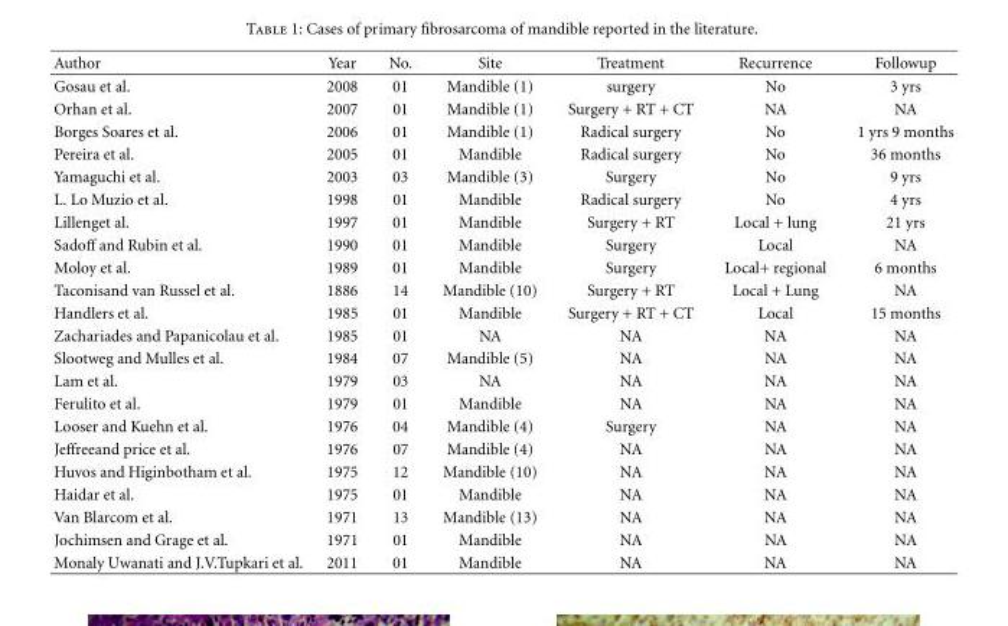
<table><thead><tr><td>Author</td><td>Year</td><td>No.</td><td>Site</td><td>Treatment</td><td>Recurrence</td><td>Followup</td></tr></thead><tbody><tr><td>Gosau et al.</td><td>2008</td><td>01</td><td>Mandible (1)</td><td>surgery</td><td>No</td><td>3 yrs</td></tr><tr><td>Orhan et al.</td><td>2007</td><td>01</td><td>Mandible (1)</td><td>Surgery + RT + CT</td><td>NA</td><td>NA</td></tr><tr><td>Borges Soares et al.</td><td>2006</td><td>01</td><td>Mandible (1)</td><td>Radical surgery</td><td>No</td><td>1 yrs 9 months</td></tr><tr><td>Pereira et al.</td><td>2005</td><td>01</td><td>Mandible</td><td>Radical surgery</td><td>No</td><td>36 months</td></tr><tr><td>Yamaguchi et al.</td><td>2003</td><td>03</td><td>Mandible (3)</td><td>Surgery</td><td>No</td><td>9 yrs</td></tr><tr><td>L. Lo Muzio et al.</td><td>1998</td><td>01</td><td>Mandible</td><td>Radical surgery</td><td>No</td><td>4 yrs</td></tr><tr><td>Lillenget al.</td><td>1997</td><td>01</td><td>Mandible</td><td>Surgery + RT</td><td>Local + lung</td><td>21 yrs</td></tr><tr><td>Sadoff and Rubin et al.</td><td>1990</td><td>01</td><td>Mandible</td><td>Surgery</td><td>Local</td><td>NA</td></tr><tr><td>Moloy et al.</td><td>1989</td><td>01</td><td>Mandible</td><td>Surgery</td><td>Local+ regional</td><td>6 months</td></tr><tr><td>Taconisand van Russel et al.</td><td>1886</td><td>14</td><td>Mandible (10)</td><td>Surgery + RT</td><td>Local + Lung</td><td>NA</td></tr><tr><td>Handlers et al.</td><td>1985</td><td>01</td><td>Mandible</td><td>Surgery + RT + CT</td><td>Local</td><td>15 months</td></tr><tr><td>Zachariades and Papanicolau et al.</td><td>1985</td><td>01</td><td>NA</td><td>NA</td><td>NA</td><td>NA</td></tr><tr><td>Slootweg and Mulles et al.</td><td>1984</td><td>07</td><td>Mandible (5)</td><td>NA</td><td>NA</td><td>NA</td></tr><tr><td>Lam et al.</td><td>1979</td><td>03</td><td>NA</td><td>NA</td><td>NA</td><td>NA</td></tr><tr><td>Ferulito et al.</td><td>1979</td><td>01</td><td>Mandible</td><td>NA</td><td>NA</td><td>NA</td></tr><tr><td>Looser and Kuehn et al.</td><td>1976</td><td>04</td><td>Mandible (4)</td><td>Surgery</td><td>NA</td><td>NA</td></tr><tr><td>Jeffreeand price et al.</td><td>1976</td><td>07</td><td>Mandible (4)</td><td>NA</td><td>NA</td><td>NA</td></tr><tr><td>Huvos and Higinbotham et al.</td><td>1975</td><td>12</td><td>Mandible (10)</td><td>NA</td><td>NA</td><td>NA</td></tr><tr><td>Haidar et al.</td><td>1975</td><td>01</td><td>Mandible</td><td>NA</td><td>NA</td><td>NA</td></tr><tr><td>Van Blarcom et al.</td><td>1971</td><td>13</td><td>Mandible (13)</td><td>NA</td><td>NA</td><td>NA</td></tr><tr><td>Jochimsen and Grage et al.</td><td>1971</td><td>01</td><td>Mandible</td><td>NA</td><td>NA</td><td>NA</td></tr><tr><td>Monaly Uwanati and J.V.Tupkari et al.</td><td>2011</td><td>01</td><td>Mandible</td><td>NA</td><td>NA</td><td>NA</td></tr></tbody></table>